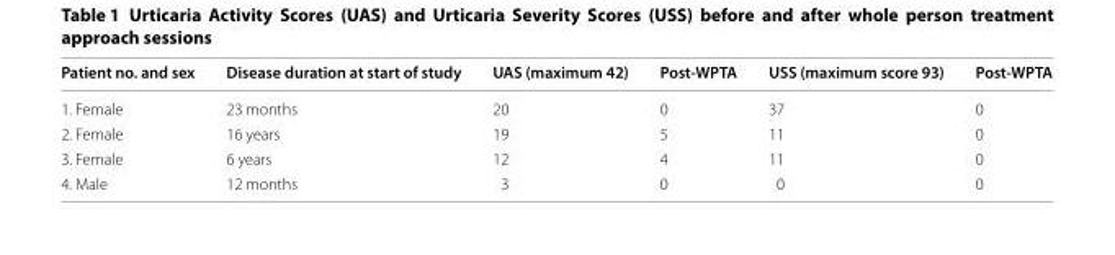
<table><thead><tr><td>Patient no. and sex</td><td>Disease duration at start of study</td><td>UAS (maximum 42)</td><td>Post-WPTA</td><td>USS (maximum score 93)</td><td>Post-WPTA</td></tr></thead><tbody><tr><td>1. Female</td><td>23 months</td><td>20</td><td>0</td><td>37</td><td>0</td></tr><tr><td>2. Female</td><td>16 years</td><td>19</td><td>5</td><td>11</td><td>0</td></tr><tr><td>3. Female</td><td>6 years</td><td>12</td><td>4</td><td>11</td><td>0</td></tr><tr><td>4. Male</td><td>12 months</td><td>3</td><td>0</td><td>0</td><td>0</td></tr></tbody></table>